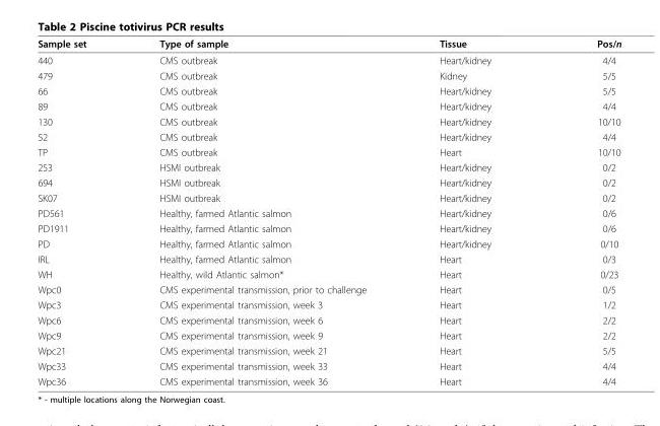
<table><thead><tr><td>Sample set</td><td>Type of sample</td><td>Tissue</td><td>Pos/n</td></tr></thead><tbody><tr><td>440</td><td>CMS outbreak</td><td>Heart/kidney</td><td>4/4</td></tr><tr><td>479</td><td>CMS outbreak</td><td>Kidney</td><td>5/5</td></tr><tr><td>66</td><td>CMS outbreak</td><td>Heart/kidney</td><td>5/5</td></tr><tr><td>89</td><td>CMS outbreak</td><td>Heart/kidney</td><td>4/4</td></tr><tr><td>130</td><td>CMS outbreak</td><td>Heart/kidney</td><td>10/10</td></tr><tr><td>52</td><td>CMS outbreak</td><td>Heart/kidney</td><td>4/4</td></tr><tr><td>TP</td><td>CMS outbreak</td><td>Heart</td><td>10/10</td></tr><tr><td>253</td><td>HSMI outbreak</td><td>Heart/kidney</td><td>0/2</td></tr><tr><td>694</td><td>HSMI outbreak</td><td>Heart/kidney</td><td>0/2</td></tr><tr><td>SK07</td><td>HSMI outbreak</td><td>Heart/kidney</td><td>0/2</td></tr><tr><td>PD561</td><td>Healthy, farmed Atlantic salmon</td><td>Heart/kidney</td><td>0/6</td></tr><tr><td>PD1911</td><td>Healthy, farmed Atlantic salmon</td><td>Heart/kidney</td><td>0/6</td></tr><tr><td>PD</td><td>Healthy, farmed Atlantic salmon</td><td>Heart/kidney</td><td>0/10</td></tr><tr><td>IRL</td><td>Healthy, farmed Atlantic salmon</td><td>Heart</td><td>0/3</td></tr><tr><td>WH</td><td>Healthy, wild Atlantic salmon*</td><td>Heart</td><td>0/23</td></tr><tr><td>Wpc0</td><td>CMS experimental transmission, prior to challenge</td><td>Heart</td><td>0/5</td></tr><tr><td>Wpc3</td><td>CMS experimental transmission, week 3</td><td>Heart</td><td>1/2</td></tr><tr><td>Wpc6</td><td>CMS experimental transmission, week 6</td><td>Heart</td><td>2/2</td></tr><tr><td>Wpc9</td><td>CMS experimental transmission, week 9</td><td>Heart</td><td>2/2</td></tr><tr><td>Wpc21</td><td>CMS experimental transmission, week 21</td><td>Heart</td><td>5/5</td></tr><tr><td>Wpc33</td><td>CMS experimental transmission, week 33</td><td>Heart</td><td>4/4</td></tr><tr><td>Wpc36</td><td>CMS experimental transmission, week 36</td><td>Heart</td><td>4/4</td></tr></tbody></table>